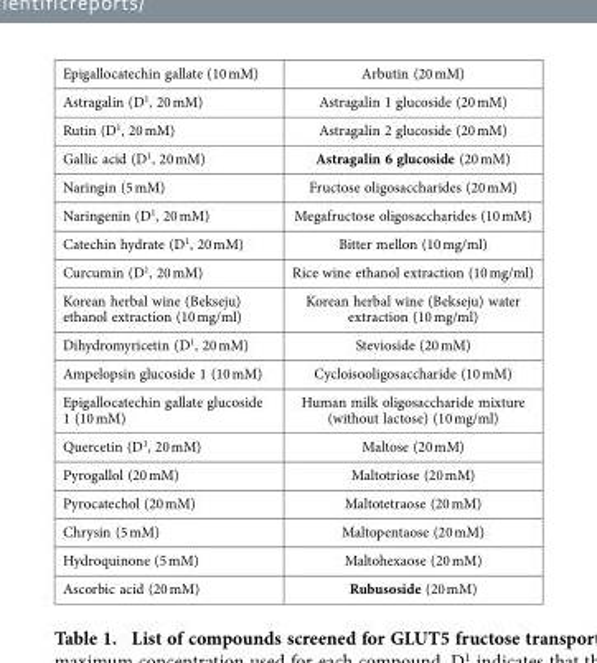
<table><tbody><tr><td>Epigallocatechin gallate (10 mM)</td><td>Arbutin (20 mM)</td></tr><tr><td>Astragalin (D<sup>1</sup>, 20 mM)</td><td>Astragalin 1 glucoside (20 mM)</td></tr><tr><td>Rutin (D<sup>1</sup>, 20 mM)</td><td>Astragalin 2 glucoside (20 mM)</td></tr><tr><td>Gallic acid (D<sup>1</sup>, 20 mM)</td><td>Astragalin 6 glucoside (20 mM)</td></tr><tr><td>Naringin (5 mM)</td><td>Fructose oligosaccharides (20 mM)</td></tr><tr><td>Naringenin (D<sup>1</sup>, 20 mM)</td><td>Megafructose oligosaccharides (10 mM)</td></tr><tr><td>Catechin hydrate (D<sup>1</sup>, 20 mM)</td><td>Bitter mellon (10 mg/ml)</td></tr><tr><td>Curcumin (D<sup>1</sup>, 20 mM)</td><td>Rice wine ethanol extraction (10 mg/ml)</td></tr><tr><td>Korean herbal wine (Bekseju) ethanol extraction (10 mg/ml)</td><td>Korean herbal wine (Bekseju) water extraction (10 mg/ml)</td></tr><tr><td>Dihydromyricetin (D<sup>1</sup>, 20 mM)</td><td>Stevioside (20 mM)</td></tr><tr><td>Ampelopsin glucoside 1 (10 mM)</td><td>Cycloisooligosaccharide (10 mM)</td></tr><tr><td>Epigallocatechin gallate glucoside 1 (10 mM)</td><td>Human milk oligosaccharide mixture (without lactose) (10 mg/ml)</td></tr><tr><td>Quercetin (D<sup>1</sup>, 20 mM)</td><td>Maltose (20 mM)</td></tr><tr><td>Pyrogallol (20 mM)</td><td>Maltotriose (20 mM)</td></tr><tr><td>Pyrocatechol (20 mM)</td><td>Maltotetraose (20 mM)</td></tr><tr><td>Chrysin (5 mM)</td><td>Maltopentaose (20 mM)</td></tr><tr><td>Hydroquinone (5 mM)</td><td>Maltohexaose (20 mM)</td></tr><tr><td>Ascorbic acid (20 mM)</td><td>Rubusoside (20 mM)</td></tr></tbody></table>